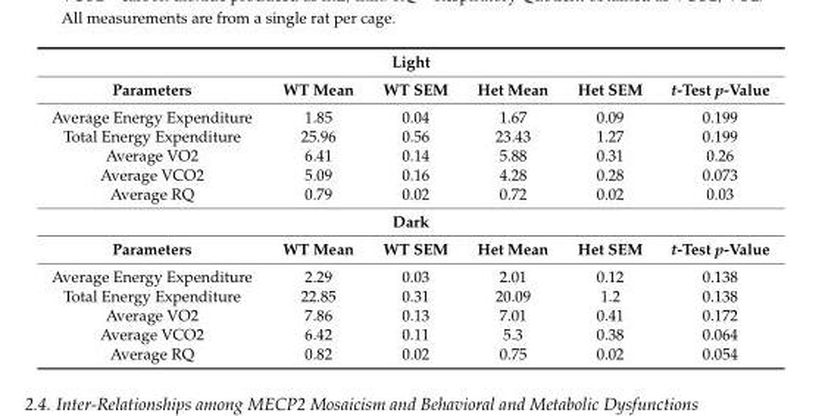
<table><tbody><tr><td colspan="6">Light</td></tr><tr><td>Parameters</td><td>WT Mean</td><td>WT SEM</td><td>Het Mean</td><td>Het SEM</td><td>t-Test p-Value</td></tr><tr><td>Average Energy Expenditure</td><td>1.85</td><td>0.04</td><td>1.67</td><td>0.09</td><td>0.199</td></tr><tr><td>Total Energy Expenditure</td><td>25.96</td><td>0.56</td><td>23.43</td><td>1.27</td><td>0.199</td></tr><tr><td>Average VO2</td><td>6.41</td><td>0.14</td><td>5.88</td><td>0.31</td><td>0.26</td></tr><tr><td>Average VCO2</td><td>5.09</td><td>0.16</td><td>4.28</td><td>0.28</td><td>0.073</td></tr><tr><td>Average RQ</td><td>0.79</td><td>0.02</td><td>0.72</td><td>0.02</td><td>0.03</td></tr><tr><td colspan="6">Dark</td></tr><tr><td>Parameters</td><td>WT Mean</td><td>WT SEM</td><td>Het Mean</td><td>Het SEM</td><td>t-Test p-Value</td></tr><tr><td>Average Energy Expenditure</td><td>2.29</td><td>0.03</td><td>2.01</td><td>0.12</td><td>0.138</td></tr><tr><td>Total Energy Expenditure</td><td>22.85</td><td>0.31</td><td>20.09</td><td>1.2</td><td>0.138</td></tr><tr><td>Average VO2</td><td>7.86</td><td>0.13</td><td>7.01</td><td>0.41</td><td>0.172</td></tr><tr><td>Average VCO2</td><td>6.42</td><td>0.11</td><td>5.3</td><td>0.38</td><td>0.064</td></tr><tr><td>Average RQ</td><td>0.82</td><td>0.02</td><td>0.75</td><td>0.02</td><td>0.054</td></tr></tbody></table>